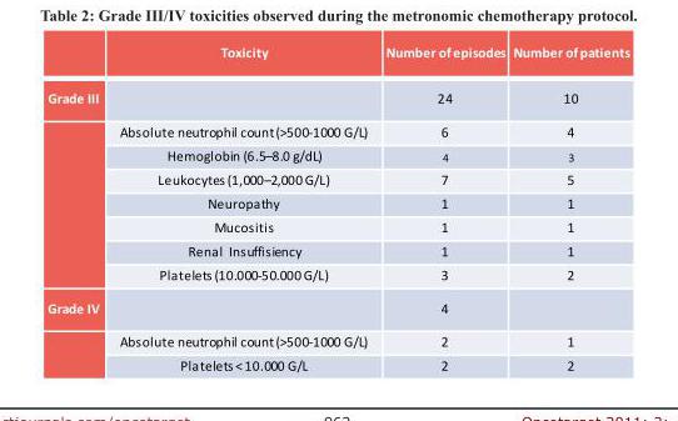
<table><thead><tr><td></td><td>Toxicity</td><td>Number of episodes</td><td>Number of patients</td></tr></thead><tbody><tr><td rowspan="8">Grade III</td><td></td><td>24</td><td>10</td></tr><tr><td>Absolute neutrophil count (&gt;500-1000 G/L)</td><td>6</td><td>4</td></tr><tr><td>Hemoglobin (6.5–8.0 g/dL)</td><td>4</td><td>3</td></tr><tr><td>Leukocytes (1,000–2,000 G/L)</td><td>7</td><td>5</td></tr><tr><td>Neuropathy</td><td>1</td><td>1</td></tr><tr><td>Mucositis</td><td>1</td><td>1</td></tr><tr><td>Renal Insuffisiency</td><td>1</td><td>1</td></tr><tr><td>Platelets (10.000-50.000 G/L)</td><td>3</td><td>2</td></tr><tr><td rowspan="3">Grade IV</td><td></td><td>4</td><td></td></tr><tr><td>Absolute neutrophil count (&gt;500-1000 G/L)</td><td>2</td><td>1</td></tr><tr><td>Platelets &lt; 10.000 G/L</td><td>2</td><td>2</td></tr></tbody></table>